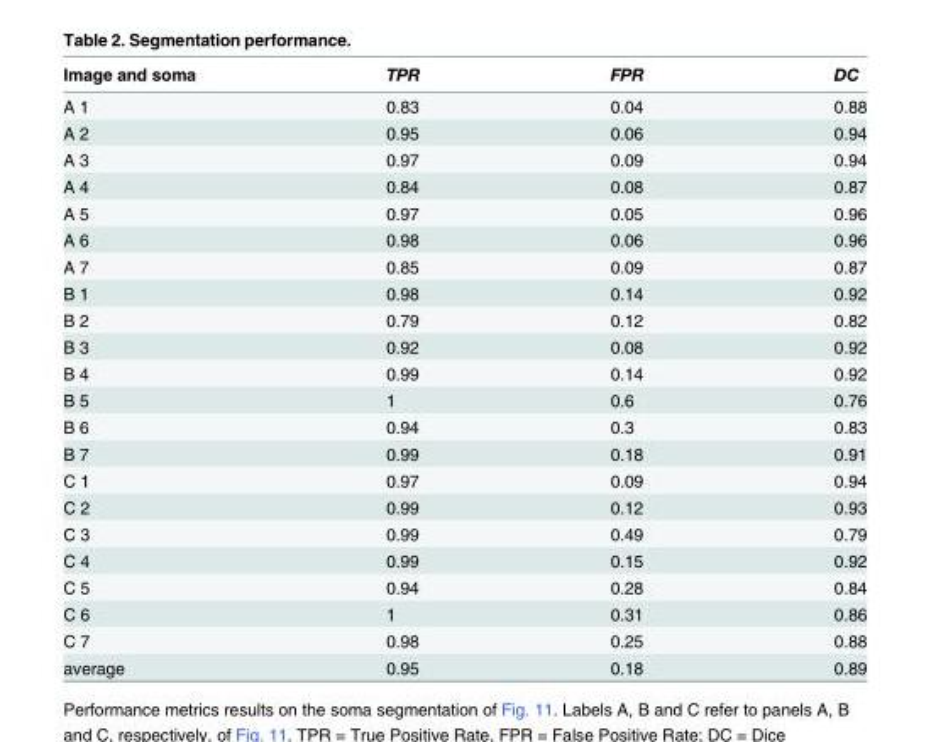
<table><thead><tr><td>Image and soma</td><td>TPR</td><td>FPR</td><td>DC</td></tr></thead><tbody><tr><td>A 1</td><td>0.83</td><td>0.04</td><td>0.88</td></tr><tr><td>A 2</td><td>0.95</td><td>0.06</td><td>0.94</td></tr><tr><td>A 3</td><td>0.97</td><td>0.09</td><td>0.94</td></tr><tr><td>A 4</td><td>0.84</td><td>0.08</td><td>0.87</td></tr><tr><td>A 5</td><td>0.97</td><td>0.05</td><td>0.96</td></tr><tr><td>A 6</td><td>0.98</td><td>0.06</td><td>0.96</td></tr><tr><td>A 7</td><td>0.85</td><td>0.09</td><td>0.87</td></tr><tr><td>B 1</td><td>0.98</td><td>0.14</td><td>0.92</td></tr><tr><td>B 2</td><td>0.79</td><td>0.12</td><td>0.82</td></tr><tr><td>B 3</td><td>0.92</td><td>0.08</td><td>0.92</td></tr><tr><td>B 4</td><td>0.99</td><td>0.14</td><td>0.92</td></tr><tr><td>B 5</td><td>1</td><td>0.6</td><td>0.76</td></tr><tr><td>B 6</td><td>0.94</td><td>0.3</td><td>0.83</td></tr><tr><td>B 7</td><td>0.99</td><td>0.18</td><td>0.91</td></tr><tr><td>C 1</td><td>0.97</td><td>0.09</td><td>0.94</td></tr><tr><td>C 2</td><td>0.99</td><td>0.12</td><td>0.93</td></tr><tr><td>C 3</td><td>0.99</td><td>0.49</td><td>0.79</td></tr><tr><td>C 4</td><td>0.99</td><td>0.15</td><td>0.92</td></tr><tr><td>C 5</td><td>0.94</td><td>0.28</td><td>0.84</td></tr><tr><td>C 6</td><td>1</td><td>0.31</td><td>0.86</td></tr><tr><td>C 7</td><td>0.98</td><td>0.25</td><td>0.88</td></tr><tr><td>average</td><td>0.95</td><td>0.18</td><td>0.89</td></tr></tbody></table>